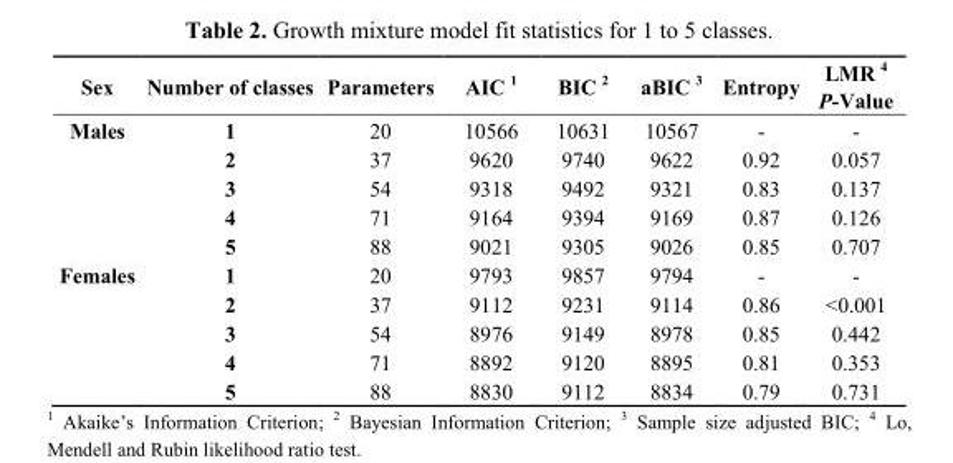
<table><thead><tr><td>Sex</td><td>Number of classes</td><td>Parameters</td><td>AIC <sup>1</sup></td><td>BIC <sup>2</sup></td><td>aBIC <sup>3</sup></td><td>Entropy</td><td>LMR <sup>4</sup> P-Value</td></tr></thead><tbody><tr><td rowspan="5">Males</td><td>1</td><td>20</td><td>10566</td><td>10631</td><td>10567</td><td>-</td><td>-</td></tr><tr><td>2</td><td>37</td><td>9620</td><td>9740</td><td>9622</td><td>0.92</td><td>0.057</td></tr><tr><td>3</td><td>54</td><td>9318</td><td>9492</td><td>9321</td><td>0.83</td><td>0.137</td></tr><tr><td>4</td><td>71</td><td>9164</td><td>9394</td><td>9169</td><td>0.87</td><td>0.126</td></tr><tr><td>5</td><td>88</td><td>9021</td><td>9305</td><td>9026</td><td>0.85</td><td>0.707</td></tr><tr><td rowspan="5">Females</td><td>1</td><td>20</td><td>9793</td><td>9857</td><td>9794</td><td>-</td><td>-</td></tr><tr><td>2</td><td>37</td><td>9112</td><td>9231</td><td>9114</td><td>0.86</td><td>&lt;0.001</td></tr><tr><td>3</td><td>54</td><td>8976</td><td>9149</td><td>8978</td><td>0.85</td><td>0.442</td></tr><tr><td>4</td><td>71</td><td>8892</td><td>9120</td><td>8895</td><td>0.81</td><td>0.353</td></tr><tr><td>5</td><td>88</td><td>8830</td><td>9112</td><td>8834</td><td>0.79</td><td>0.731</td></tr></tbody></table>